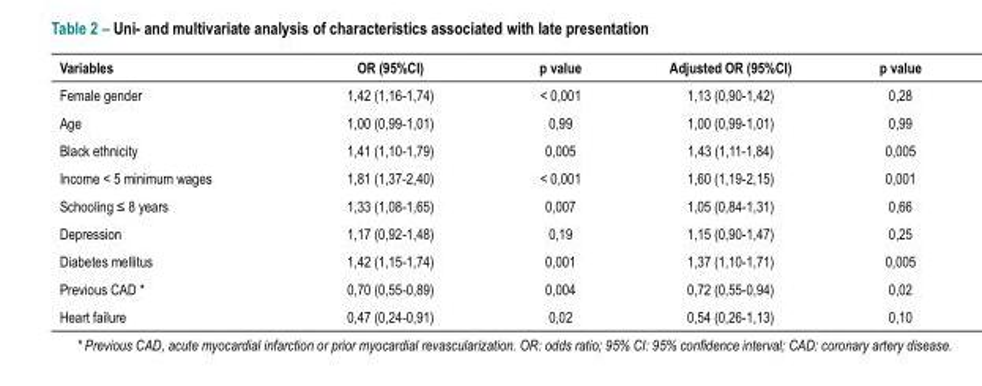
<table><thead><tr><td>Variables</td><td>OR (95%CI)</td><td>p value</td><td>Adjusted OR (95%CI)</td><td>p value</td></tr></thead><tbody><tr><td>Female gender</td><td>1,42 (1,16-1,74)</td><td>&lt; 0,001</td><td>1,13 (0,90-1,42)</td><td>0,28</td></tr><tr><td>Age</td><td>1,00 (0,99-1,01)</td><td>0,99</td><td>1,00 (0,99-1,01)</td><td>0,99</td></tr><tr><td>Black ethnicity</td><td>1,41 (1,10-1,79)</td><td>0,005</td><td>1,43 (1,11-1,84)</td><td>0,005</td></tr><tr><td>Income &lt; 5 minimum wages</td><td>1,81 (1,37-2,40)</td><td>&lt; 0,001</td><td>1,60 (1,19-2,15)</td><td>0,001</td></tr><tr><td>Schooling ≤ 8 years</td><td>1,33 (1,08-1,65)</td><td>0,007</td><td>1,05 (0,84-1,31)</td><td>0,66</td></tr><tr><td>Depression</td><td>1,17 (0,92-1,48)</td><td>0,19</td><td>1,15 (0,90-1,47)</td><td>0,25</td></tr><tr><td>Diabetes mellitus</td><td>1,42 (1,15-1,74)</td><td>0,001</td><td>1,37 (1,10-1,71)</td><td>0,005</td></tr><tr><td>Previous CAD *</td><td>0,70 (0,55-0,89)</td><td>0,004</td><td>0,72 (0,55-0,94)</td><td>0,02</td></tr><tr><td>Heart failure</td><td>0,47 (0,24-0,91)</td><td>0,02</td><td>0,54 (0,26-1,13)</td><td>0,10</td></tr></tbody></table>